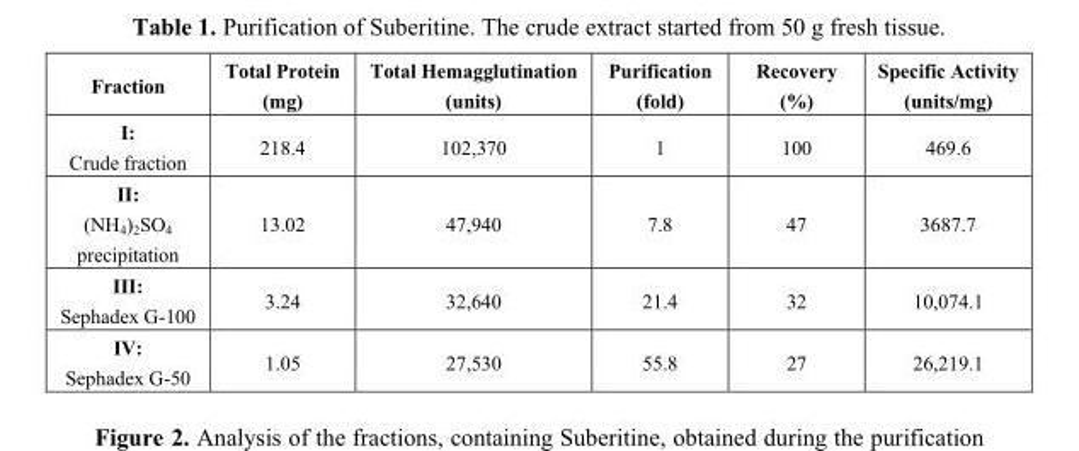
<table><thead><tr><td>Fraction</td><td>Total Protein (mg)</td><td>Total Hemagglutination (units)</td><td>Purification (fold)</td><td>Recovery (%)</td><td>Specific Activity (units/mg)</td></tr></thead><tbody><tr><td>I: Crude fraction</td><td>218.4</td><td>102,370</td><td>1</td><td>100</td><td>469.6</td></tr><tr><td>II: (NH<sub>4</sub>)<sub>2</sub>SO<sub>4</sub> precipitation</td><td>13.02</td><td>47,940</td><td>7.8</td><td>47</td><td>3687.7</td></tr><tr><td>III: Sephadex G-100</td><td>3.24</td><td>32,640</td><td>21.4</td><td>32</td><td>10,074.1</td></tr><tr><td>IV: Sephadex G-50</td><td>1.05</td><td>27,530</td><td>55.8</td><td>27</td><td>26,219.1</td></tr></tbody></table>